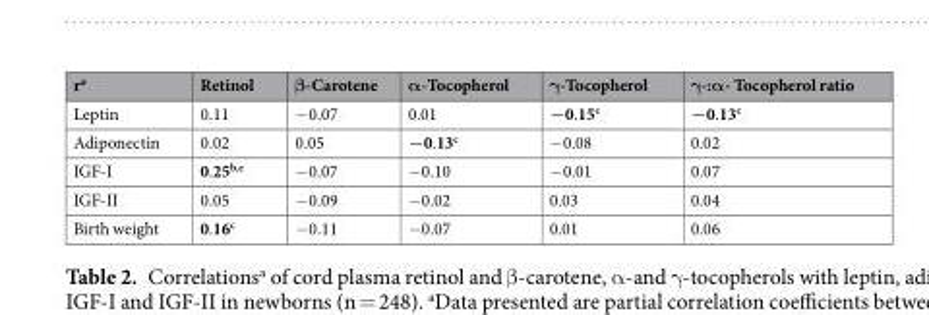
<table><thead><tr><td>r<sup>a</sup></td><td>Retinol</td><td>β-Carotene</td><td>α-Tocopherol</td><td>γ-Tocopherol</td><td>γ-:α- Tocopherol ratio</td></tr></thead><tbody><tr><td>Leptin</td><td>0.11</td><td>−0.07</td><td>0.01</td><td>−0.15<sup>c</sup></td><td>−0.13<sup>c</sup></td></tr><tr><td>Adiponectin</td><td>0.02</td><td>0.05</td><td>−0.13<sup>c</sup></td><td>−0.08</td><td>0.02</td></tr><tr><td>IGF-I</td><td>0.25<sup>b,e</sup></td><td>−0.07</td><td>−0.10</td><td>−0.01</td><td>0.07</td></tr><tr><td>IGF-II</td><td>0.05</td><td>−0.09</td><td>−0.02</td><td>0.03</td><td>0.04</td></tr><tr><td>Birth weight</td><td>0.16<sup>c</sup></td><td>−0.11</td><td>−0.07</td><td>0.01</td><td>0.06</td></tr></tbody></table>